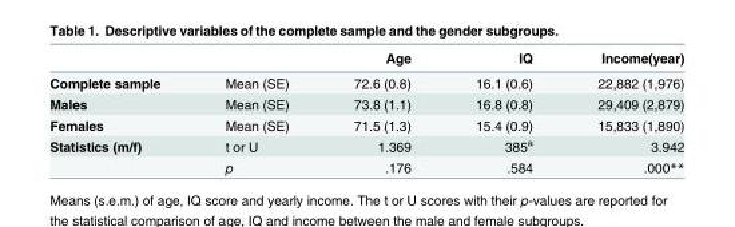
<table><thead><tr><td></td><td></td><td>Age</td><td>IQ</td><td>Income(year)</td></tr></thead><tbody><tr><td>Complete sample</td><td>Mean (SE)</td><td>72.6 (0.8)</td><td>16.1 (0.6)</td><td>22,882 (1,976)</td></tr><tr><td>Males</td><td>Mean (SE)</td><td>73.8 (1.1)</td><td>16.8 (0.8)</td><td>29,409 (2,879)</td></tr><tr><td>Females</td><td>Mean (SE)</td><td>71.5 (1.3)</td><td>15.4 (0.9)</td><td>15,833 (1,890)</td></tr><tr><td rowspan="2">Statistics (m/f)</td><td>t or U</td><td>1.369</td><td>385<sup>a</sup></td><td>3.942</td></tr><tr><td>p</td><td>.176</td><td>.584</td><td>.000**</td></tr></tbody></table>